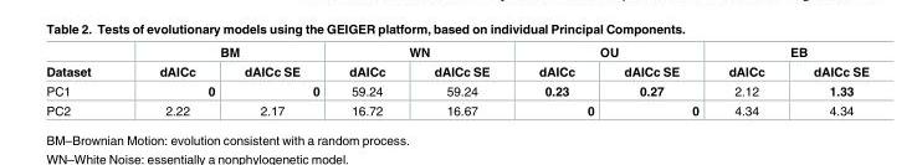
<table><thead><tr><td rowspan="2">Dataset</td><td colspan="2">BM</td><td colspan="2">WN</td><td colspan="2">OU</td><td colspan="2">EB</td></tr><tr><td>dAICc</td><td>dAICc SE</td><td>dAICc</td><td>dAICc SE</td><td>dAICc</td><td>dAICc SE</td><td>dAICc</td><td>dAICc SE</td></tr></thead><tbody><tr><td>PC1</td><td>0</td><td>0</td><td>59.24</td><td>59.24</td><td>0.23</td><td>0.27</td><td>2.12</td><td>1.33</td></tr><tr><td>PC2</td><td>2.22</td><td>2.17</td><td>16.72</td><td>16.67</td><td>0</td><td>0</td><td>4.34</td><td>4.34</td></tr></tbody></table>